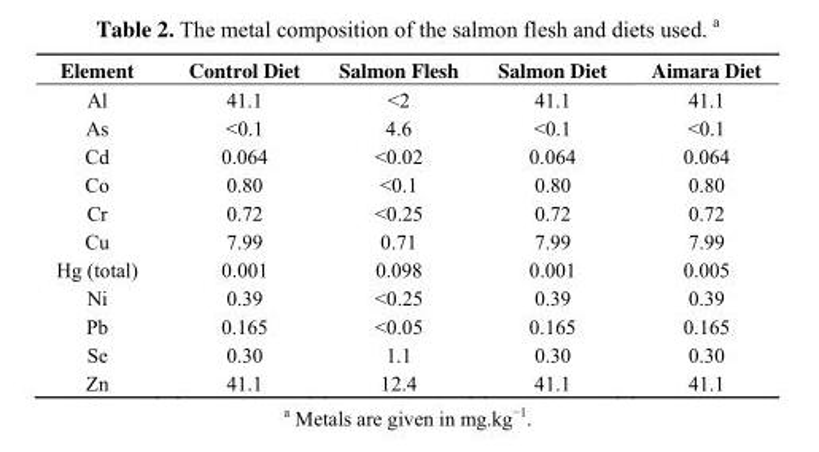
<table><thead><tr><td>Element</td><td>Control Diet</td><td>Salmon Flesh</td><td>Salmon Diet</td><td>Aimara Diet</td></tr></thead><tbody><tr><td>Al</td><td>41.1</td><td>&lt;2</td><td>41.1</td><td>41.1</td></tr><tr><td>As</td><td>&lt;0.1</td><td>4.6</td><td>&lt;0.1</td><td>&lt;0.1</td></tr><tr><td>Cd</td><td>0.064</td><td>&lt;0.02</td><td>0.064</td><td>0.064</td></tr><tr><td>Co</td><td>0.80</td><td>&lt;0.1</td><td>0.80</td><td>0.80</td></tr><tr><td>Cr</td><td>0.72</td><td>&lt;0.25</td><td>0.72</td><td>0.72</td></tr><tr><td>Cu</td><td>7.99</td><td>0.71</td><td>7.99</td><td>7.99</td></tr><tr><td>Hg (total)</td><td>0.001</td><td>0.098</td><td>0.001</td><td>0.005</td></tr><tr><td>Ni</td><td>0.39</td><td>&lt;0.25</td><td>0.39</td><td>0.39</td></tr><tr><td>Pb</td><td>0.165</td><td>&lt;0.05</td><td>0.165</td><td>0.165</td></tr><tr><td>Se</td><td>0.30</td><td>1.1</td><td>0.30</td><td>0.30</td></tr><tr><td>Zn</td><td>41.1</td><td>12.4</td><td>41.1</td><td>41.1</td></tr></tbody></table>